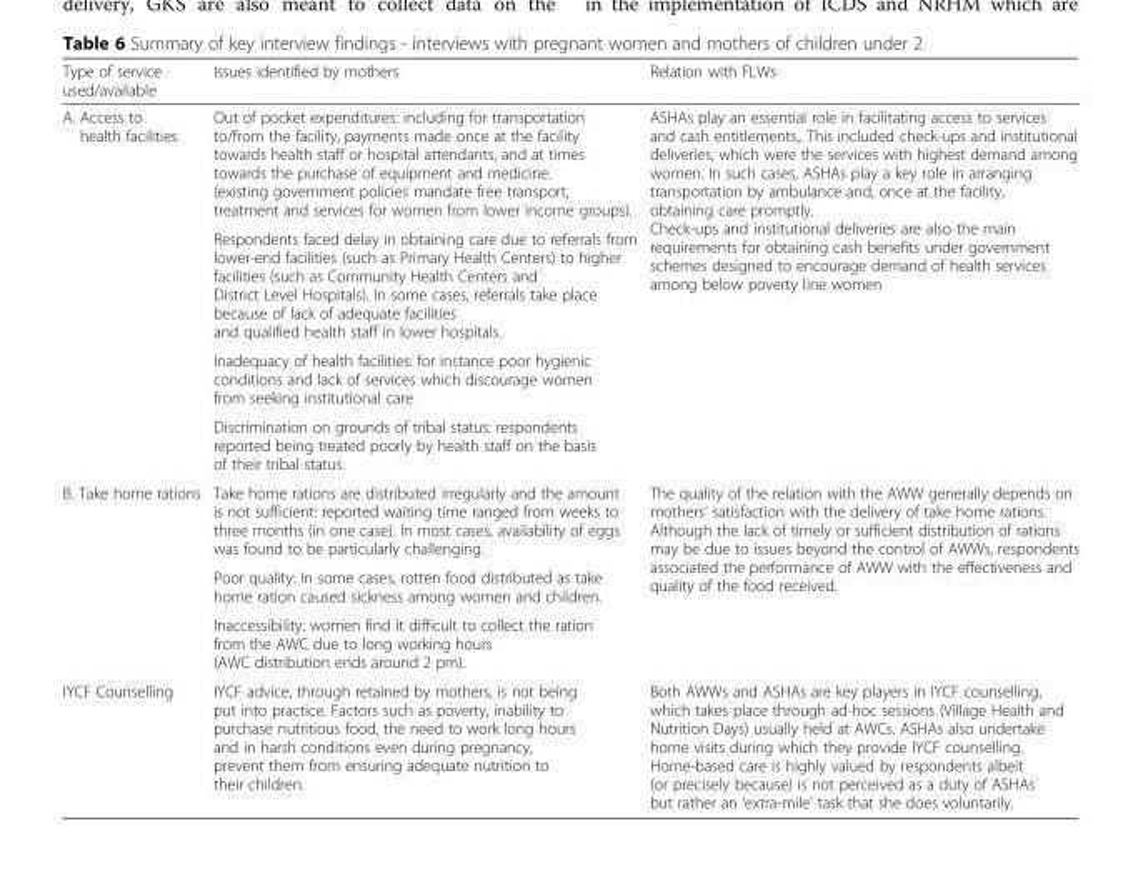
<table><thead><tr><td>Type of service used/available</td><td>Issues identified by mothers</td><td>Relation with FLWs</td></tr></thead><tbody><tr><td rowspan="4">A. Access to health facilities</td><td>Out of pocket expenditures: including for transportation to/from the facility, payments made once at the facility towards health staff or hospital attendants, and at times towards the purchase of equipment and medicine. (existing government policies mandate free transport, treatment and services for women from lower income groups).</td><td rowspan="4">ASHAs play an essential role in facilitating access to services and cash entitlements,. This included check-ups and institutional deliveries, which were the services with highest demand among women. In such cases, ASHAs play a key role in arranging transportation by ambulance and, once at the facility, obtaining care promptly. Check-ups and institutional deliveries are also the main requirements for obtaining cash benefits under government schemes designed to encourage demand of health services among below poverty line women</td></tr><tr><td>Respondents faced delay in obtaining care due to referrals from lower-end facilities (such as Primary Health Centers) to higher facilities (such as Community Health Centers and District Level Hospitals). In some cases, referrals take place because of lack of adequate facilities and qualified health staff in lower hospitals.</td></tr><tr><td>Inadequacy of health facilities: for instance poor hygienic conditions and lack of services which discourage women from seeking institutional care</td></tr><tr><td>Discrimination on grounds of tribal status: respondents reported being treated poorly by health staff on the basis of their tribal status.</td></tr><tr><td rowspan="3">B. Take home rations</td><td>Take home rations are distributed irregularly and the amount is not sufficient: reported waiting time ranged from weeks to three months (in one case). In most cases, availability of eggs was found to be particularly challenging.</td><td rowspan="3">The quality of the relation with the AWW generally depends on mothers’ satisfaction with the delivery of take home rations. Although the lack of timely or sufficient distribution of rations may be due to issues beyond the control of AWWs, respondents associated the performance of AWW with the effectiveness and quality of the food received.</td></tr><tr><td>Poor quality: In some cases, rotten food distributed as take home ration caused sickness among women and children.</td></tr><tr><td>Inaccessibility: women find it difficult to collect the ration from the AWC due to long working hours (AWC distribution ends around 2 pm).</td></tr><tr><td>IYCF Counselling</td><td>IYCF advice, through retained by mothers, is not being put into practice. Factors such as poverty, inability to purchase nutritious food, the need to work long hours and in harsh conditions even during pregnancy, prevent them from ensuring adequate nutrition to their children.</td><td>Both AWWs and ASHAs are key players in IYCF counselling, which takes place through ad-hoc sessions (Village Health and Nutrition Days) usually held at AWCs. ASHAs also undertake home visits during which they provide IYCF counselling. Home-based care is highly valued by respondents albeit (or precisely because) is not perceived as a duty of ASHAs but rather an ‘extra-mile’ task that she does voluntarily.</td></tr></tbody></table>